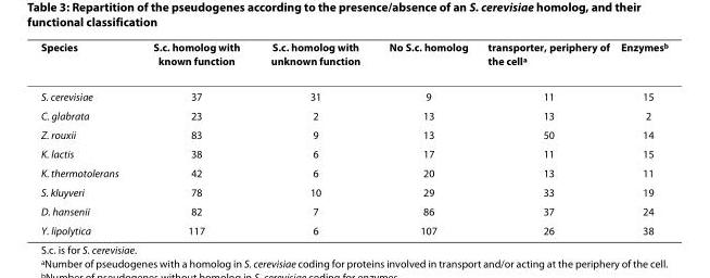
<table><thead><tr><td>Species</td><td>S.c. homolog with known function</td><td>S.c. homolog with unknown function</td><td>No S.c. homolog</td><td>transporter, periphery of the cell<sup>a</sup></td><td>Enzymes<sup>b</sup></td></tr></thead><tbody><tr><td>S. cerevisiae</td><td>37</td><td>31</td><td>9</td><td>11</td><td>15</td></tr><tr><td>C. glabrata</td><td>23</td><td>2</td><td>13</td><td>13</td><td>2</td></tr><tr><td>Z. rouxii</td><td>83</td><td>9</td><td>13</td><td>50</td><td>14</td></tr><tr><td>K. lactis</td><td>38</td><td>6</td><td>17</td><td>11</td><td>15</td></tr><tr><td>K. thermotolerans</td><td>42</td><td>6</td><td>20</td><td>13</td><td>11</td></tr><tr><td>S. kluyveri</td><td>78</td><td>10</td><td>29</td><td>33</td><td>19</td></tr><tr><td>D. hansenii</td><td>82</td><td>7</td><td>86</td><td>37</td><td>24</td></tr><tr><td>Y. lipolytica</td><td>117</td><td>6</td><td>107</td><td>26</td><td>38</td></tr></tbody></table>